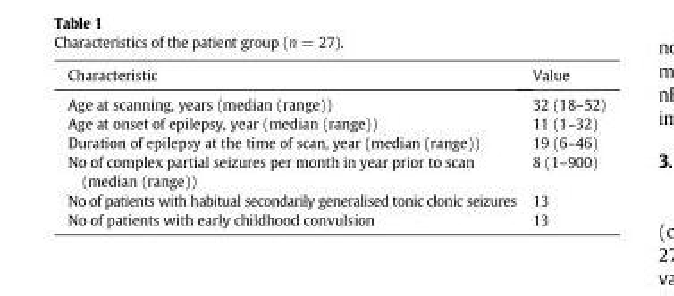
<table><thead><tr><td>Characteristic</td><td>Value</td></tr></thead><tbody><tr><td>Age at scanning, years (median (range))</td><td>32 (18–52)</td></tr><tr><td>Age at onset of epilepsy, year (median (range))</td><td>11 (1–32)</td></tr><tr><td>Duration of epilepsy at the time of scan, year (median (range))</td><td>19 (6–46)</td></tr><tr><td>No of complex partial seizures per month in year prior to scan (median (range))</td><td>8 (1–900)</td></tr><tr><td>No of patients with habitual secondarily generalised tonic clonic seizures</td><td>13</td></tr><tr><td>No of patients with early childhood convulsion</td><td>13</td></tr></tbody></table>